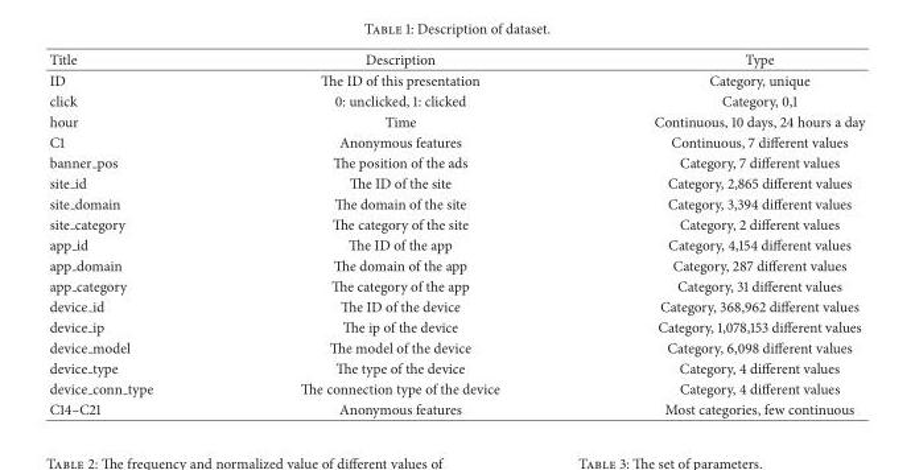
<table><thead><tr><td>Title</td><td>Description</td><td>Type</td></tr></thead><tbody><tr><td>ID</td><td>The ID of this presentation</td><td>Category, unique</td></tr><tr><td>click</td><td>0: unclicked, 1: clicked</td><td>Category, 0,1</td></tr><tr><td>hour</td><td>Time</td><td>Continuous, 10 days, 24 hours a day</td></tr><tr><td>C1</td><td>Anonymous features</td><td>Continuous, 7 different values</td></tr><tr><td>banner pos</td><td>The position of the ads</td><td>Category, 7 different values</td></tr><tr><td>site id</td><td>The ID of the site</td><td>Category, 2,865 different values</td></tr><tr><td>site domain</td><td>The domain of the site</td><td>Category, 3,394 different values</td></tr><tr><td>site category</td><td>The category of the site</td><td>Category, 2 different values</td></tr><tr><td>app id</td><td>The ID of the app</td><td>Category, 4,154 different values</td></tr><tr><td>app domain</td><td>The domain of the app</td><td>Category, 287 different values</td></tr><tr><td>app category</td><td>The category of the app</td><td>Category, 31 different values</td></tr><tr><td>device id</td><td>The ID of the device</td><td>Category, 368,962 different values</td></tr><tr><td>device ip</td><td>The ip of the device</td><td>Category, 1,078,153 different values</td></tr><tr><td>device model</td><td>The model of the device</td><td>Category, 6,098 different values</td></tr><tr><td>device type</td><td>The type of the device</td><td>Category, 4 different values</td></tr><tr><td>device <sub>conn</sub> type</td><td>The connection type of the device</td><td>Category, 4 different values</td></tr><tr><td>C14–C21</td><td>Anonymous features</td><td>Most categories, few continuous</td></tr></tbody></table>